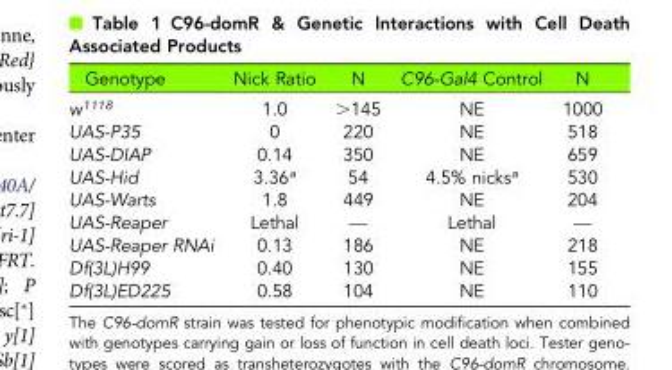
<table><thead><tr><td>Genotype</td><td>Nick Ratio</td><td>N</td><td>C96-Gal4 Control</td><td>N</td></tr></thead><tbody><tr><td>w<sup>1118</sup></td><td>1.0</td><td>&gt;145</td><td>NE</td><td>1000</td></tr><tr><td>UAS-P35</td><td>0</td><td>220</td><td>NE</td><td>518</td></tr><tr><td>UAS-DIAP</td><td>0.14</td><td>350</td><td>NE</td><td>659</td></tr><tr><td>UAS-Hid</td><td>3.36<sup>a</sup></td><td>54</td><td>4.5% nicks<sup>a</sup></td><td>530</td></tr><tr><td>UAS-Warts</td><td>1.8</td><td>449</td><td>NE</td><td>204</td></tr><tr><td>UAS-Reaper</td><td>Lethal</td><td>—</td><td>Lethal</td><td>—</td></tr><tr><td>UAS-Reaper RNAi</td><td>0.13</td><td>186</td><td>NE</td><td>218</td></tr><tr><td>Df(3L)H99</td><td>0.40</td><td>130</td><td>NE</td><td>155</td></tr><tr><td>Df(3L)ED225</td><td>0.58</td><td>104</td><td>NE</td><td>110</td></tr></tbody></table>